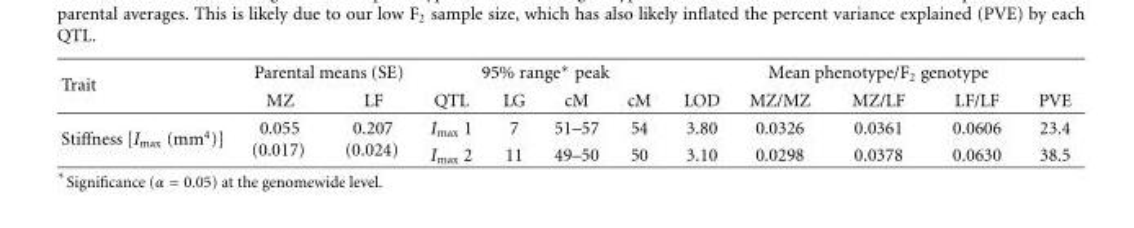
<table><thead><tr><td rowspan="2">Trait</td><td colspan="2">Parental means (SE)</td><td colspan="4">95% range∗ peak</td><td colspan="5">Mean phenotype/F<sub>2</sub> genotype</td></tr><tr><td>MZ</td><td>LF</td><td>QTL</td><td>LG</td><td>cM</td><td>cM</td><td>LOD</td><td>MZ/MZ</td><td>MZ/LF</td><td>LF/LF</td><td>PVE</td></tr></thead><tbody><tr><td rowspan="2">Stiffness [I<sub>max</sub> (mm<sup>4</sup>)]</td><td rowspan="2">0.055 (0.017)</td><td rowspan="2">0.207 (0.024)</td><td>I<sub>max</sub> 1</td><td>7</td><td>51–57</td><td>54</td><td>3.80</td><td>0.0326</td><td>0.0361</td><td>0.0606</td><td>23.4</td></tr><tr><td>I<sub>max</sub> 2</td><td>11</td><td>49–50</td><td>50</td><td>3.10</td><td>0.0298</td><td>0.0378</td><td>0.0630</td><td>38.5</td></tr></tbody></table>